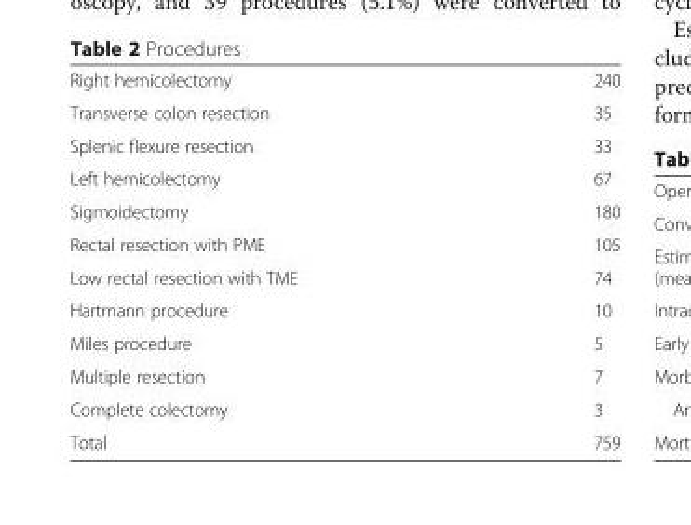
<table><tbody><tr><td>Right hemicolectomy</td><td>240</td></tr><tr><td>Transverse colon resection</td><td>35</td></tr><tr><td>Splenic flexure resection</td><td>33</td></tr><tr><td>Left hemicolectomy</td><td>67</td></tr><tr><td>Sigmoidectomy</td><td>180</td></tr><tr><td>Rectal resection with PME</td><td>105</td></tr><tr><td>Low rectal resection with TME</td><td>74</td></tr><tr><td>Hartmann procedure</td><td>10</td></tr><tr><td>Miles procedure</td><td>5</td></tr><tr><td>Multiple resection</td><td>7</td></tr><tr><td>Complete colectomy</td><td>3</td></tr><tr><td>Total</td><td>759</td></tr></tbody></table>